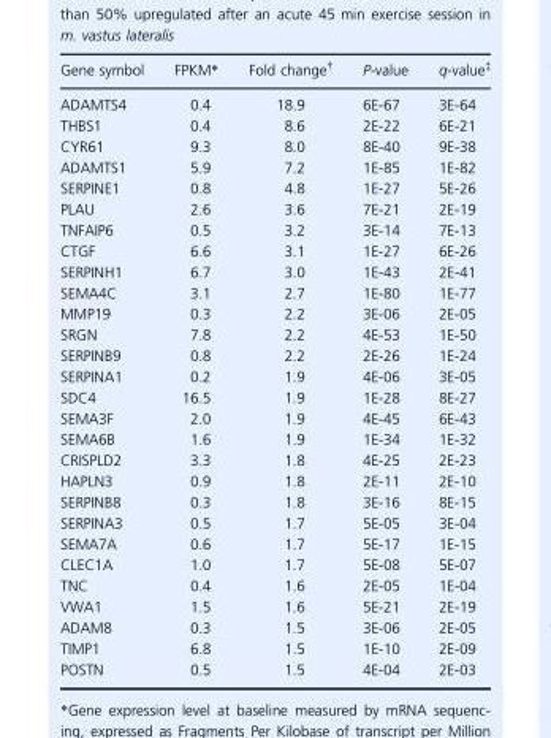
<table><thead><tr><td>Gene symbol</td><td>FPKM*</td><td>Fold change†</td><td>P-value</td><td>q-value‡</td></tr></thead><tbody><tr><td>ADAMTS4</td><td>0.4</td><td>18.9</td><td>6E-67</td><td>3E-64</td></tr><tr><td>THBS1</td><td>0.4</td><td>8.6</td><td>2E-22</td><td>6E-21</td></tr><tr><td>CYR61</td><td>9.3</td><td>8.0</td><td>8E-40</td><td>9E-38</td></tr><tr><td>ADAMTS1</td><td>5.9</td><td>7.2</td><td>1E-85</td><td>1E-82</td></tr><tr><td>SERPINE1</td><td>0.8</td><td>4.8</td><td>1E-27</td><td>5E-26</td></tr><tr><td>PLAU</td><td>2.6</td><td>3.6</td><td>7E-21</td><td>2E-19</td></tr><tr><td>TNFAIP6</td><td>0.5</td><td>3.2</td><td>3E-14</td><td>7E-13</td></tr><tr><td>CTGF</td><td>6.6</td><td>3.1</td><td>1E-27</td><td>6E-26</td></tr><tr><td>SERPINH1</td><td>6.7</td><td>3.0</td><td>1E-43</td><td>2E-41</td></tr><tr><td>SEMA4C</td><td>3.1</td><td>2.7</td><td>1E-80</td><td>1E-77</td></tr><tr><td>MMP19</td><td>0.3</td><td>2.2</td><td>3E-06</td><td>2E-05</td></tr><tr><td>SRGN</td><td>7.8</td><td>2.2</td><td>4E-53</td><td>1E-50</td></tr><tr><td>SERPINB9</td><td>0.8</td><td>2.2</td><td>2E-26</td><td>1E-24</td></tr><tr><td>SERPINA1</td><td>0.2</td><td>1.9</td><td>4E-06</td><td>3E-05</td></tr><tr><td>SDC4</td><td>16.5</td><td>1.9</td><td>1E-28</td><td>8E-27</td></tr><tr><td>SEMA3F</td><td>2.0</td><td>1.9</td><td>4E-45</td><td>6E-43</td></tr><tr><td>SEMA6B</td><td>1.6</td><td>1.9</td><td>1E-34</td><td>1E-32</td></tr><tr><td>CRISPLD2</td><td>3.3</td><td>1.8</td><td>4E-25</td><td>2E-23</td></tr><tr><td>HAPLN3</td><td>0.9</td><td>1.8</td><td>2E-11</td><td>2E-10</td></tr><tr><td>SERPINB8</td><td>0.3</td><td>1.8</td><td>3E-16</td><td>8E-15</td></tr><tr><td>SERPINA3</td><td>0.5</td><td>1.7</td><td>5E-05</td><td>3E-04</td></tr><tr><td>SEMA7A</td><td>0.6</td><td>1.7</td><td>5E-17</td><td>1E-15</td></tr><tr><td>CLEC1A</td><td>1.0</td><td>1.7</td><td>5E-08</td><td>5E-07</td></tr><tr><td>TNC</td><td>0.4</td><td>1.6</td><td>2E-05</td><td>1E-04</td></tr><tr><td>VWA1</td><td>1.5</td><td>1.6</td><td>5E-21</td><td>2E-19</td></tr><tr><td>ADAM8</td><td>0.3</td><td>1.5</td><td>3E-06</td><td>2E-05</td></tr><tr><td>TIMP1</td><td>6.8</td><td>1.5</td><td>1E-10</td><td>2E-09</td></tr><tr><td>POSTN</td><td>0.5</td><td>1.5</td><td>4E-04</td><td>2E-03</td></tr></tbody></table>